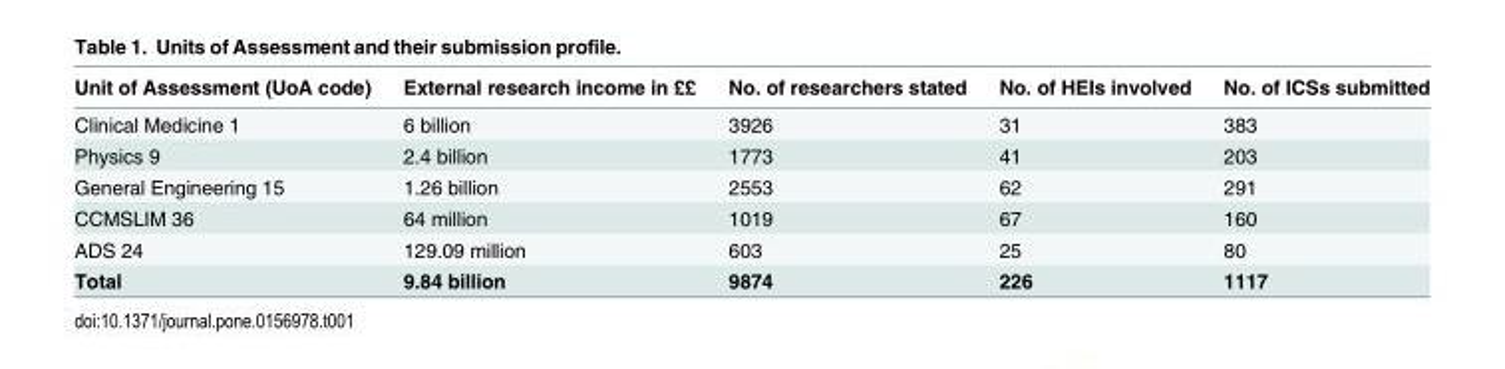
<table><thead><tr><td>Unit of Assessment (UoA code)</td><td>External research income in ££</td><td>No. of researchers stated</td><td>No. of HEIs involved</td><td>No. of ICSs submitted</td></tr></thead><tbody><tr><td>Clinical Medicine 1</td><td>6 billion</td><td>3926</td><td>31</td><td>383</td></tr><tr><td>Physics 9</td><td>2.4 billion</td><td>1773</td><td>41</td><td>203</td></tr><tr><td>General Engineering 15</td><td>1.26 billion</td><td>2553</td><td>62</td><td>291</td></tr><tr><td>CCMSLIM 36</td><td>64 million</td><td>1019</td><td>67</td><td>160</td></tr><tr><td>ADS 24</td><td>129.09 million</td><td>603</td><td>25</td><td>80</td></tr><tr><td>Total</td><td>9.84 billion</td><td>9874</td><td>226</td><td>1117</td></tr></tbody></table>